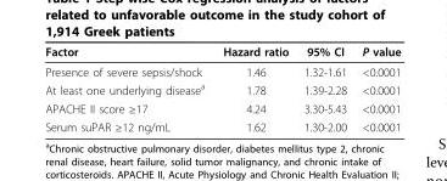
<table><thead><tr><td>Factor</td><td>Hazard ratio</td><td>95% CI</td><td>P value</td></tr></thead><tbody><tr><td>Presence of severe sepsis/shock</td><td>1.46</td><td>1.32-1.61</td><td>&lt;0.0001</td></tr><tr><td>At least one underlying disease<sup>a</sup></td><td>1.78</td><td>1.39-2.28</td><td>&lt;0.0001</td></tr><tr><td>APACHE II score ≥17</td><td>4.24</td><td>3.30-5.43</td><td>&lt;0.0001</td></tr><tr><td>Serum suPAR ≥12 ng/mL</td><td>1.62</td><td>1.30-2.00</td><td>&lt;0.0001</td></tr></tbody></table>